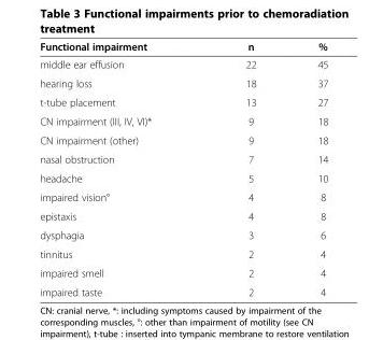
<table><thead><tr><td>Functional impairment</td><td>n</td><td>%</td></tr></thead><tbody><tr><td>middle ear effusion</td><td>22</td><td>45</td></tr><tr><td>hearing loss</td><td>18</td><td>37</td></tr><tr><td>t-tube placement</td><td>13</td><td>27</td></tr><tr><td>CN impairment (III, IV, VI)*</td><td>9</td><td>18</td></tr><tr><td>CN impairment (other)</td><td>9</td><td>18</td></tr><tr><td>nasal obstruction</td><td>7</td><td>14</td></tr><tr><td>headache</td><td>5</td><td>10</td></tr><tr><td>impaired vision°</td><td>4</td><td>8</td></tr><tr><td>epistaxis</td><td>4</td><td>8</td></tr><tr><td>dysphagia</td><td>3</td><td>6</td></tr><tr><td>tinnitus</td><td>2</td><td>4</td></tr><tr><td>impaired smell</td><td>2</td><td>4</td></tr><tr><td>impaired taste</td><td>2</td><td>4</td></tr></tbody></table>